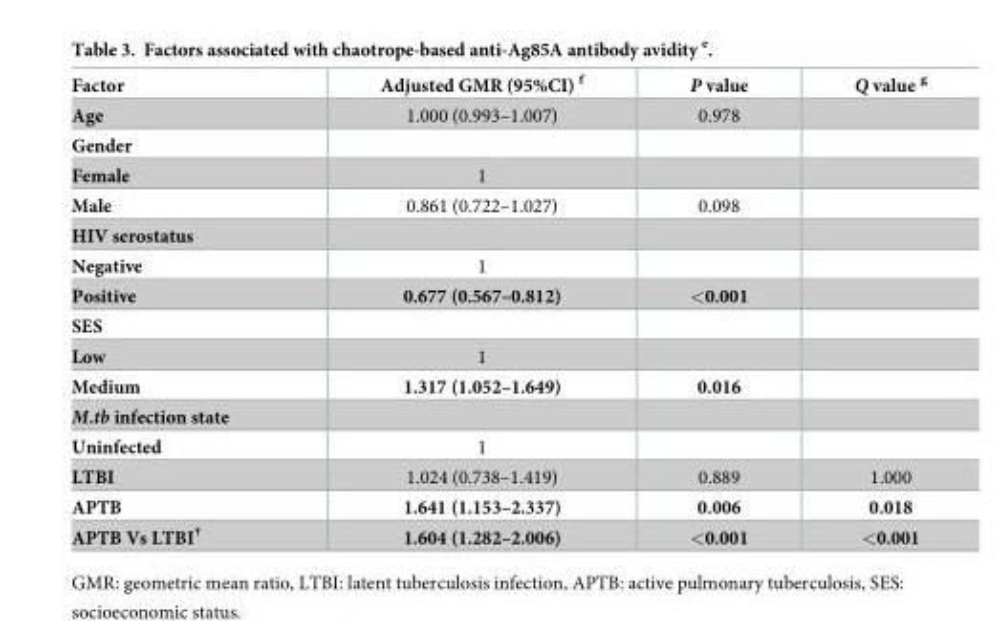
<table><thead><tr><td>Factor</td><td>Adjusted GMR (95%CI) <sup>f</sup></td><td>P value</td><td>Q value <sup>g</sup></td></tr></thead><tbody><tr><td>Age</td><td>1.000 (0.993–1.007)</td><td>0.978</td><td></td></tr><tr><td colspan="4">Gender</td></tr><tr><td>Female</td><td>1</td><td></td><td></td></tr><tr><td>Male</td><td>0.861 (0.722–1.027)</td><td>0.098</td><td></td></tr><tr><td colspan="4">HIV serostatus</td></tr><tr><td>Negative</td><td>1</td><td></td><td></td></tr><tr><td>Positive</td><td>0.677 (0.567–0.812)</td><td>&lt;0.001</td><td></td></tr><tr><td colspan="4">SES</td></tr><tr><td>Low</td><td>1</td><td></td><td></td></tr><tr><td>Medium</td><td>1.317 (1.052–1.649)</td><td>0.016</td><td></td></tr><tr><td colspan="4">M.tb infection state</td></tr><tr><td>Uninfected</td><td>1</td><td></td><td></td></tr><tr><td>LTBI</td><td>1.024 (0.738–1.419)</td><td>0.889</td><td>1.000</td></tr><tr><td>APTB</td><td>1.641 (1.153–2.337)</td><td>0.006</td><td>0.018</td></tr><tr><td>APTB Vs LTBI<sup>†</sup></td><td>1.604 (1.282–2.006)</td><td>&lt;0.001</td><td>&lt;0.001</td></tr></tbody></table>